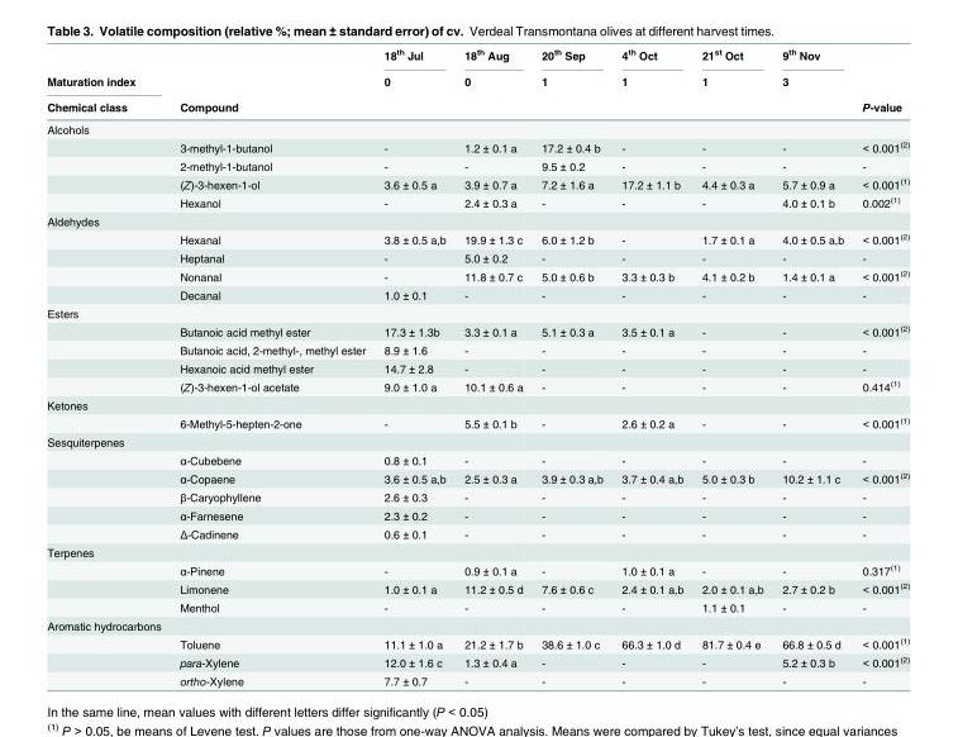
<table><thead><tr><td rowspan="3">Maturation index Chemical class</td><td rowspan="3">Compound</td><td rowspan="3">18<sup>th</sup> Jul 0</td><td rowspan="3">18<sup>th</sup> Aug 0</td><td rowspan="3">20<sup>th</sup> Sep 1</td><td rowspan="3">4<sup>th</sup> Oct 1</td><td rowspan="3">21<sup>st</sup> Oct 1</td><td rowspan="3">9<sup>th</sup> Nov 3</td><td rowspan="3">P-value</td></tr><tr></tr><tr></tr></thead><tbody><tr><td colspan="9">Alcohols</td></tr><tr><td></td><td>3-methyl-1-butanol</td><td>-</td><td>1.2 ± 0.1 a</td><td>17.2 ± 0.4 b</td><td>-</td><td>-</td><td>-</td><td>&lt; 0.001<sup>(2)</sup></td></tr><tr><td></td><td>2-methyl-1-butanol</td><td>-</td><td>-</td><td>9.5 ± 0.2</td><td>-</td><td>-</td><td>-</td><td>-</td></tr><tr><td></td><td>(Z)-3-hexen-1-ol</td><td>3.6 ± 0.5 a</td><td>3.9 ± 0.7 a</td><td>7.2 ± 1.6 a</td><td>17.2 ± 1.1 b</td><td>4.4 ± 0.3 a</td><td>5.7 ± 0.9 a</td><td>&lt; 0.001<sup>(1)</sup></td></tr><tr><td></td><td>Hexanol</td><td>-</td><td>2.4 ± 0.3 a</td><td>-</td><td>-</td><td>-</td><td>4.0 ± 0.1 b</td><td>0.002<sup>(1)</sup></td></tr><tr><td colspan="9">Aldehydes</td></tr><tr><td></td><td>Hexanal</td><td>3.8 ± 0.5 a,b</td><td>19.9 ± 1.3 c</td><td>6.0 ± 1.2 b</td><td>-</td><td>1.7 ± 0.1 a</td><td>4.0 ± 0.5 a,b</td><td>&lt; 0.001<sup>(2)</sup></td></tr><tr><td></td><td>Heptanal</td><td>-</td><td>5.0 ± 0.2</td><td>-</td><td>-</td><td>-</td><td>-</td><td>-</td></tr><tr><td></td><td>Nonanal</td><td>-</td><td>11.8 ± 0.7 c</td><td>5.0 ± 0.6 b</td><td>3.3 ± 0.3 b</td><td>4.1 ± 0.2 b</td><td>1.4 ± 0.1 a</td><td>&lt; 0.001<sup>(2)</sup></td></tr><tr><td></td><td>Decanal</td><td>1.0 ± 0.1</td><td>-</td><td>-</td><td>-</td><td>-</td><td>-</td><td>-</td></tr><tr><td colspan="9">Esters</td></tr><tr><td></td><td>Butanoic acid methyl ester</td><td>17.3 ± 1.3b</td><td>3.3 ± 0.1 a</td><td>5.1 ± 0.3 a</td><td>3.5 ± 0.1 a</td><td>-</td><td>-</td><td>&lt; 0.001<sup>(2)</sup></td></tr><tr><td></td><td>Butanoic acid, 2-methyl-, methyl ester</td><td>8.9 ± 1.6</td><td>-</td><td>-</td><td>-</td><td>-</td><td>-</td><td>-</td></tr><tr><td></td><td>Hexanoic acid methyl ester</td><td>14.7 ± 2.8</td><td>-</td><td>-</td><td>-</td><td>-</td><td>-</td><td>-</td></tr><tr><td></td><td>(Z)-3-hexen-1-ol acetate</td><td>9.0 ± 1.0 a</td><td>10.1 ± 0.6 a</td><td>-</td><td>-</td><td>-</td><td>-</td><td>0.414<sup>(1)</sup></td></tr><tr><td colspan="9">Ketones</td></tr><tr><td></td><td>6-Methyl-5-hepten-2-one</td><td>-</td><td>5.5 ± 0.1 b</td><td>-</td><td>2.6 ± 0.2 a</td><td>-</td><td>-</td><td>&lt; 0.001<sup>(1)</sup></td></tr><tr><td colspan="9">Sesquiterpenes</td></tr><tr><td></td><td>α-Cubebene</td><td>0.8 ± 0.1</td><td>-</td><td>-</td><td>-</td><td>-</td><td>-</td><td>-</td></tr><tr><td></td><td>α-Copaene</td><td>3.6 ± 0.5 a,b</td><td>2.5 ± 0.3 a</td><td>3.9 ± 0.3 a,b</td><td>3.7 ± 0.4 a,b</td><td>5.0 ± 0.3 b</td><td>10.2 ± 1.1 c</td><td>&lt; 0.001<sup>(2)</sup></td></tr><tr><td></td><td>β-Caryophyllene</td><td>2.6 ± 0.3</td><td>-</td><td>-</td><td>-</td><td>-</td><td>-</td><td>-</td></tr><tr><td></td><td>α-Farnesene</td><td>2.3 ± 0.2</td><td>-</td><td>-</td><td>-</td><td>-</td><td>-</td><td>-</td></tr><tr><td></td><td>Δ-Cadinene</td><td>0.6 ± 0.1</td><td>-</td><td>-</td><td>-</td><td>-</td><td>-</td><td>-</td></tr><tr><td colspan="9">Terpenes</td></tr><tr><td></td><td>α-Pinene</td><td>-</td><td>0.9 ± 0.1 a</td><td>-</td><td>1.0 ± 0.1 a</td><td>-</td><td>-</td><td>0.317<sup>(1)</sup></td></tr><tr><td></td><td>Limonene</td><td>1.0 ± 0.1 a</td><td>11.2 ± 0.5 d</td><td>7.6 ± 0.6 c</td><td>2.4 ± 0.1 a,b</td><td>2.0 ± 0.1 a,b</td><td>2.7 ± 0.2 b</td><td>&lt; 0.001<sup>(2)</sup></td></tr><tr><td></td><td>Menthol</td><td>-</td><td>-</td><td>-</td><td>-</td><td>1.1 ± 0.1</td><td>-</td><td>-</td></tr><tr><td colspan="9">Aromatic hydrocarbons</td></tr><tr><td></td><td>Toluene</td><td>11.1 ± 1.0 a</td><td>21.2 ± 1.7 b</td><td>38.6 ± 1.0 c</td><td>66.3 ± 1.0 d</td><td>81.7 ± 0.4 e</td><td>66.8 ± 0.5 d</td><td>&lt; 0.001<sup>(1)</sup></td></tr><tr><td></td><td>para-Xylene</td><td>12.0 ± 1.6 c</td><td>1.3 ± 0.4 a</td><td>-</td><td>-</td><td>-</td><td>5.2 ± 0.3 b</td><td>&lt; 0.001<sup>(2)</sup></td></tr><tr><td></td><td>ortho-Xylene</td><td>7.7 ± 0.7</td><td>-</td><td>-</td><td>-</td><td>-</td><td>-</td><td>-</td></tr></tbody></table>